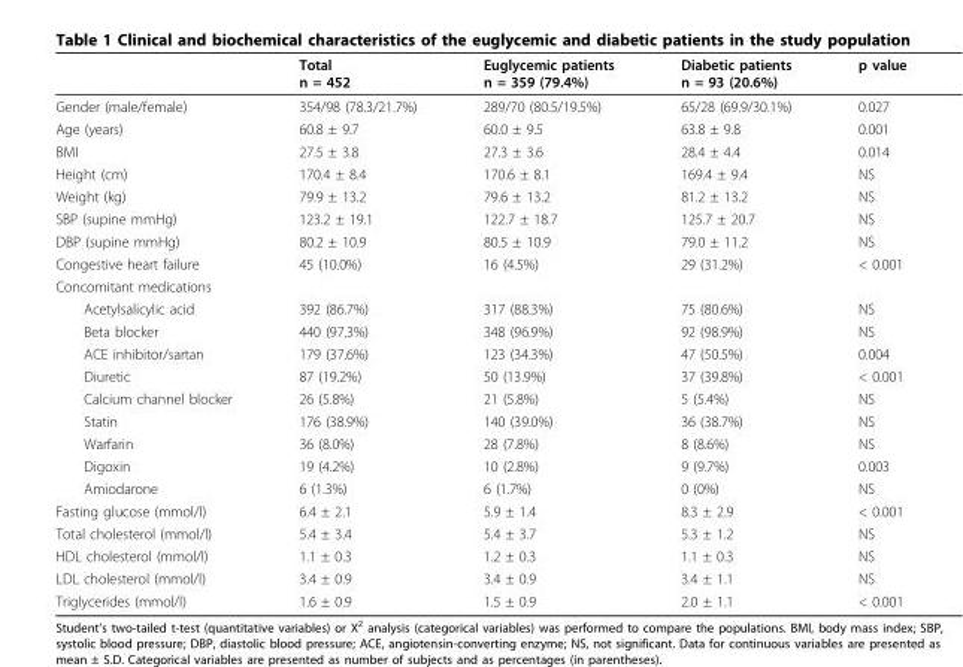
<table><thead><tr><td></td><td>Total n = 452</td><td>Euglycemic patients n = 359 (79.4%)</td><td>Diabetic patients n = 93 (20.6%)</td><td>p value</td></tr></thead><tbody><tr><td>Gender (male/female)</td><td>354/98 (78.3/21.7%)</td><td>289/70 (80.5/19.5%)</td><td>65/28 (69.9/30.1%)</td><td>0.027</td></tr><tr><td>Age (years)</td><td>60.8 ± 9.7</td><td>60.0 ± 9.5</td><td>63.8 ± 9.8</td><td>0.001</td></tr><tr><td>BMI</td><td>27.5 ± 3.8</td><td>27.3 ± 3.6</td><td>28.4 ± 4.4</td><td>0.014</td></tr><tr><td>Height (cm)</td><td>170.4 ± 8.4</td><td>170.6 ± 8.1</td><td>169.4 ± 9.4</td><td>NS</td></tr><tr><td>Weight (kg)</td><td>79.9 ± 13.2</td><td>79.6 ± 13.2</td><td>81.2 ± 13.2</td><td>NS</td></tr><tr><td>SBP (supine mmHg)</td><td>123.2 ± 19.1</td><td>122.7 ± 18.7</td><td>125.7 ± 20.7</td><td>NS</td></tr><tr><td>DBP (supine mmHg)</td><td>80.2 ± 10.9</td><td>80.5 ± 10.9</td><td>79.0 ± 11.2</td><td>NS</td></tr><tr><td>Congestive heart failure</td><td>45 (10.0%)</td><td>16 (4.5%)</td><td>29 (31.2%)</td><td>&lt; 0.001</td></tr><tr><td colspan="5">Concomitant medications</td></tr><tr><td>Acetylsalicylic acid</td><td>392 (86.7%)</td><td>317 (88.3%)</td><td>75 (80.6%)</td><td>NS</td></tr><tr><td>Beta blocker</td><td>440 (97.3%)</td><td>348 (96.9%)</td><td>92 (98.9%)</td><td>NS</td></tr><tr><td>ACE inhibitor/sartan</td><td>179 (37.6%)</td><td>123 (34.3%)</td><td>47 (50.5%)</td><td>0.004</td></tr><tr><td>Diuretic</td><td>87 (19.2%)</td><td>50 (13.9%)</td><td>37 (39.8%)</td><td>&lt; 0.001</td></tr><tr><td>Calcium channel blocker</td><td>26 (5.8%)</td><td>21 (5.8%)</td><td>5 (5.4%)</td><td>NS</td></tr><tr><td>Statin</td><td>176 (38.9%)</td><td>140 (39.0%)</td><td>36 (38.7%)</td><td>NS</td></tr><tr><td>Warfarin</td><td>36 (8.0%)</td><td>28 (7.8%)</td><td>8 (8.6%)</td><td>NS</td></tr><tr><td>Digoxin</td><td>19 (4.2%)</td><td>10 (2.8%)</td><td>9 (9.7%)</td><td>0.003</td></tr><tr><td>Amiodarone</td><td>6 (1.3%)</td><td>6 (1.7%)</td><td>0 (0%)</td><td>NS</td></tr><tr><td>Fasting glucose (mmol/l)</td><td>6.4 ± 2.1</td><td>5.9 ± 1.4</td><td>8.3 ± 2.9</td><td>&lt; 0.001</td></tr><tr><td>Total cholesterol (mmol/l)</td><td>5.4 ± 3.4</td><td>5.4 ± 3.7</td><td>5.3 ± 1.2</td><td>NS</td></tr><tr><td>HDL cholesterol (mmol/l)</td><td>1.1 ± 0.3</td><td>1.2 ± 0.3</td><td>1.1 ± 0.3</td><td>NS</td></tr><tr><td>LDL cholesterol (mmol/l)</td><td>3.4 ± 0.9</td><td>3.4 ± 0.9</td><td>3.4 ± 1.1</td><td>NS</td></tr><tr><td>Triglycerides (mmol/l)</td><td>1.6 ± 0.9</td><td>1.5 ± 0.9</td><td>2.0 ± 1.1</td><td>&lt; 0.001</td></tr></tbody></table>